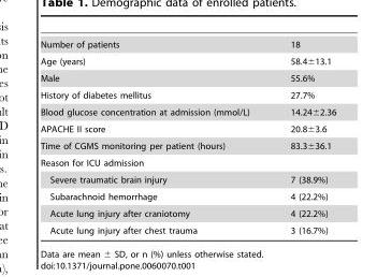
<table><tbody><tr><td>Number of patients</td><td>18</td></tr><tr><td>Age (years)</td><td>58.4±13.1</td></tr><tr><td>Male</td><td>55.6%</td></tr><tr><td>History of diabetes mellitus</td><td>27.7%</td></tr><tr><td>Blood glucose concentration at admission (mmol/L)</td><td>14.24±2.36</td></tr><tr><td>APACHE II score</td><td>20.8±3.6</td></tr><tr><td>Time of CGMS monitoring per patient (hours)</td><td>83.3±36.1</td></tr><tr><td colspan="2">Reason for ICU admission</td></tr><tr><td>Severe traumatic brain injury</td><td>7 (38.9%)</td></tr><tr><td>Subarachnoid hemorrhage</td><td>4 (22.2%)</td></tr><tr><td>Acute lung injury after craniotomy</td><td>4 (22.2%)</td></tr><tr><td>Acute lung injury after chest trauma</td><td>3 (16.7%)</td></tr></tbody></table>